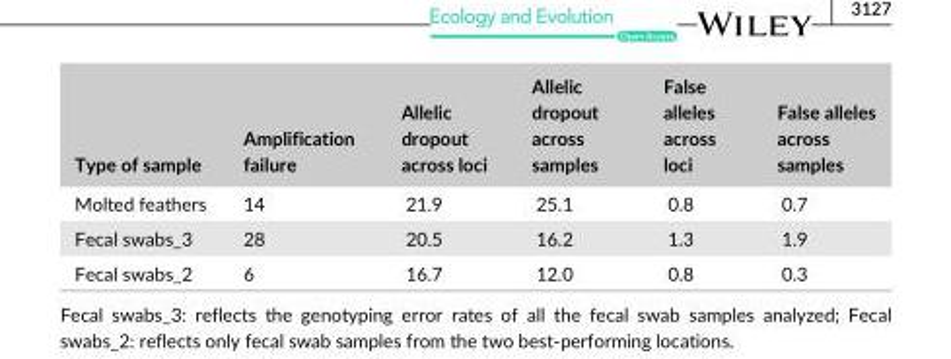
<table><thead><tr><td>Type of sample</td><td>Amplification failure</td><td>Allelic dropout across loci</td><td>Allelic dropout across samples</td><td>False alleles across loci</td><td>False alleles across samples</td></tr></thead><tbody><tr><td>Molted feathers</td><td>14</td><td>21.9</td><td>25.1</td><td>0.8</td><td>0.7</td></tr><tr><td>Fecal swabs_3</td><td>28</td><td>20.5</td><td>16.2</td><td>1.3</td><td>1.9</td></tr><tr><td>Fecal swabs_2</td><td>6</td><td>16.7</td><td>12.0</td><td>0.8</td><td>0.3</td></tr></tbody></table>